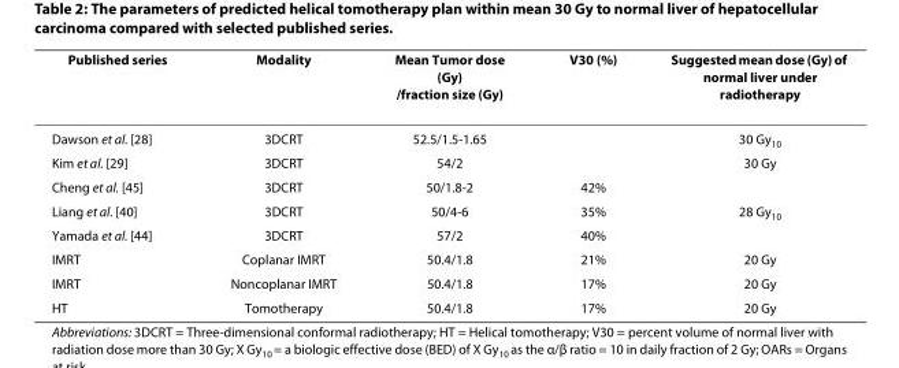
<table><thead><tr><td>Published series</td><td>Modality</td><td>Mean Tumor dose (Gy) /fraction size (Gy)</td><td>V30 (%)</td><td>Suggested mean dose (Gy) of normal liver under radiotherapy</td></tr></thead><tbody><tr><td>Dawson et al. [28]</td><td>3DCRT</td><td>52.5/1.5-1.65</td><td></td><td>30 Gy<sub>10</sub></td></tr><tr><td>Kim et al. [29]</td><td>3DCRT</td><td>54/2</td><td></td><td>30 Gy</td></tr><tr><td>Cheng et al. [45]</td><td>3DCRT</td><td>50/1.8-2</td><td>42%</td><td></td></tr><tr><td>Liang et al. [40]</td><td>3DCRT</td><td>50/4-6</td><td>35%</td><td>28 Gy<sub>10</sub></td></tr><tr><td>Yamada et al. [44]</td><td>3DCRT</td><td>57/2</td><td>40%</td><td></td></tr><tr><td>IMRT</td><td>Coplanar IMRT</td><td>50.4/1.8</td><td>21%</td><td>20 Gy</td></tr><tr><td>IMRT</td><td>Noncoplanar IMRT</td><td>50.4/1.8</td><td>17%</td><td>20 Gy</td></tr><tr><td>HT</td><td>Tomotherapy</td><td>50.4/1.8</td><td>17%</td><td>20 Gy</td></tr></tbody></table>